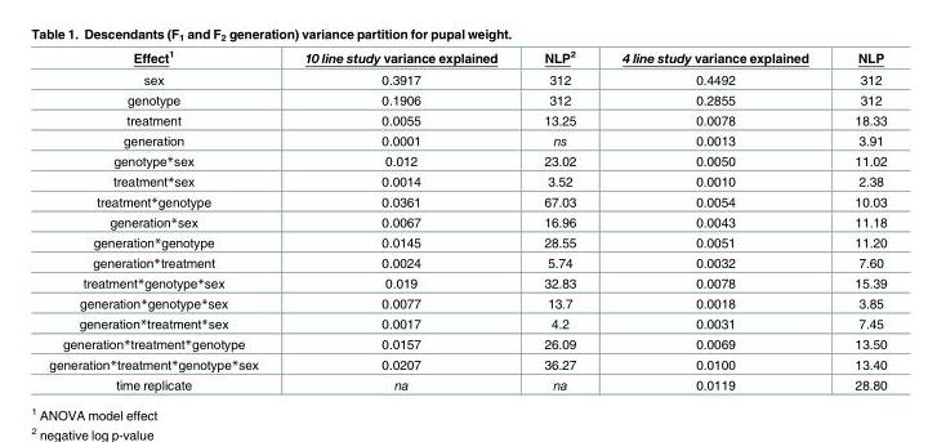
<table><thead><tr><td>Effect<sup>1</sup></td><td>10 line study variance explained</td><td>NLP<sup>2</sup></td><td>4 line study variance explained</td><td>NLP</td></tr></thead><tbody><tr><td>sex</td><td>0.3917</td><td>312</td><td>0.4492</td><td>312</td></tr><tr><td>genotype</td><td>0.1906</td><td>312</td><td>0.2855</td><td>312</td></tr><tr><td>treatment</td><td>0.0055</td><td>13.25</td><td>0.0078</td><td>18.33</td></tr><tr><td>generation</td><td>0.0001</td><td>ns</td><td>0.0013</td><td>3.91</td></tr><tr><td>genotype*sex</td><td>0.012</td><td>23.02</td><td>0.0050</td><td>11.02</td></tr><tr><td>treatment*sex</td><td>0.0014</td><td>3.52</td><td>0.0010</td><td>2.38</td></tr><tr><td>treatment*genotype</td><td>0.0361</td><td>67.03</td><td>0.0054</td><td>10.03</td></tr><tr><td>generation*sex</td><td>0.0067</td><td>16.96</td><td>0.0043</td><td>11.18</td></tr><tr><td>generation*genotype</td><td>0.0145</td><td>28.55</td><td>0.0051</td><td>11.20</td></tr><tr><td>generation*treatment</td><td>0.0024</td><td>5.74</td><td>0.0032</td><td>7.60</td></tr><tr><td>treatment*genotype*sex</td><td>0.019</td><td>32.83</td><td>0.0078</td><td>15.39</td></tr><tr><td>generation*genotype*sex</td><td>0.0077</td><td>13.7</td><td>0.0018</td><td>3.85</td></tr><tr><td>generation*treatment*sex</td><td>0.0017</td><td>4.2</td><td>0.0031</td><td>7.45</td></tr><tr><td>generation*treatment*genotype</td><td>0.0157</td><td>26.09</td><td>0.0069</td><td>13.50</td></tr><tr><td>generation*treatment*genotype*sex</td><td>0.0207</td><td>36.27</td><td>0.0100</td><td>13.40</td></tr><tr><td>time replicate</td><td>na</td><td>na</td><td>0.0119</td><td>28.80</td></tr></tbody></table>